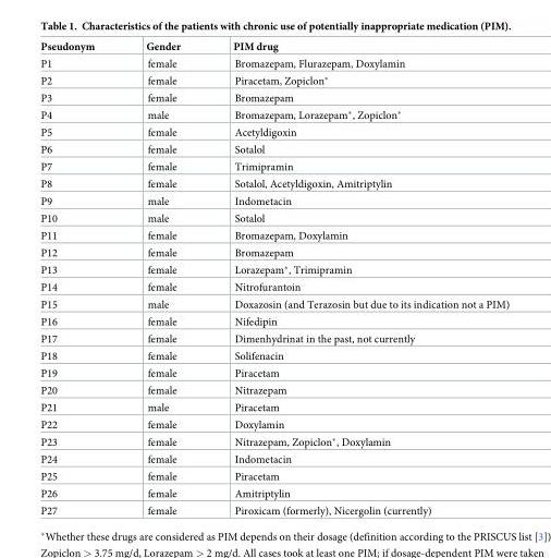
<table><thead><tr><td>Pseudonym</td><td>Gender</td><td>PIM drug</td></tr></thead><tbody><tr><td>P1</td><td>female</td><td>Bromazepam, Flurazepam, Doxylamin</td></tr><tr><td>P2</td><td>female</td><td>Piracetam, Zopiclon*</td></tr><tr><td>P3</td><td>female</td><td>Bromazepam</td></tr><tr><td>P4</td><td>male</td><td>Bromazepam, Lorazepam*, Zopiclon*</td></tr><tr><td>P5</td><td>female</td><td>Acetyldigoxin</td></tr><tr><td>P6</td><td>female</td><td>Sotalol</td></tr><tr><td>P7</td><td>female</td><td>Trimipramin</td></tr><tr><td>P8</td><td>female</td><td>Sotalol, Acetyldigoxin, Amitriptylin</td></tr><tr><td>P9</td><td>male</td><td>Indometacin</td></tr><tr><td>P10</td><td>male</td><td>Sotalol</td></tr><tr><td>P11</td><td>female</td><td>Bromazepam, Doxylamin</td></tr><tr><td>P12</td><td>female</td><td>Bromazepam</td></tr><tr><td>P13</td><td>female</td><td>Lorazepam*, Trimipramin</td></tr><tr><td>P14</td><td>female</td><td>Nitrofurantoin</td></tr><tr><td>P15</td><td>male</td><td>Doxazosin (and Terazosin but due to its indication not a PIM)</td></tr><tr><td>P16</td><td>female</td><td>Nifedipin</td></tr><tr><td>P17</td><td>female</td><td>Dimenhydrinat in the past, not currently</td></tr><tr><td>P18</td><td>female</td><td>Solifenacin</td></tr><tr><td>P19</td><td>female</td><td>Piracetam</td></tr><tr><td>P20</td><td>female</td><td>Nitrazepam</td></tr><tr><td>P21</td><td>male</td><td>Piracetam</td></tr><tr><td>P22</td><td>female</td><td>Doxylamin</td></tr><tr><td>P23</td><td>female</td><td>Nitrazepam, Zopiclon*, Doxylamin</td></tr><tr><td>P24</td><td>female</td><td>Indometacin</td></tr><tr><td>P25</td><td>female</td><td>Piracetam</td></tr><tr><td>P26</td><td>female</td><td>Amitriptylin</td></tr><tr><td>P27</td><td>female</td><td>Piroxicam (formerly), Nicergolin (currently)</td></tr></tbody></table>